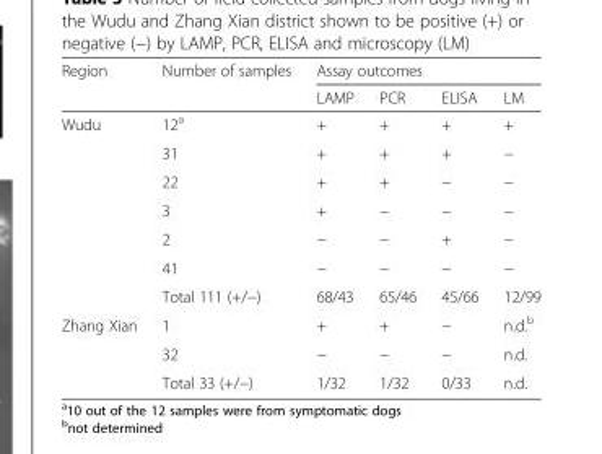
<table><thead><tr><td rowspan="2">Region</td><td rowspan="2">Number of samples</td><td colspan="4">Assay outcomes</td></tr><tr><td>LAMP</td><td>PCR</td><td>ELISA</td><td>LM</td></tr></thead><tbody><tr><td rowspan="7">Wudu</td><td>12<sup>a</sup></td><td>+</td><td>+</td><td>+</td><td>+</td></tr><tr><td>31</td><td>+</td><td>+</td><td>+</td><td>−</td></tr><tr><td>22</td><td>+</td><td>+</td><td>−</td><td>−</td></tr><tr><td>3</td><td>+</td><td>−</td><td>−</td><td>−</td></tr><tr><td>2</td><td>−</td><td>−</td><td>+</td><td>−</td></tr><tr><td>41</td><td>−</td><td>−</td><td>−</td><td>−</td></tr><tr><td>Total 111 (+/−)</td><td>68/43</td><td>65/46</td><td>45/66</td><td>12/99</td></tr><tr><td rowspan="3">Zhang Xian</td><td>1</td><td>+</td><td>+</td><td>−</td><td>n.d.<sup>b</sup></td></tr><tr><td>32</td><td>−</td><td>−</td><td>−</td><td>n.d.</td></tr><tr><td>Total 33 (+/−)</td><td>1/32</td><td>1/32</td><td>0/33</td><td>n.d.</td></tr></tbody></table>